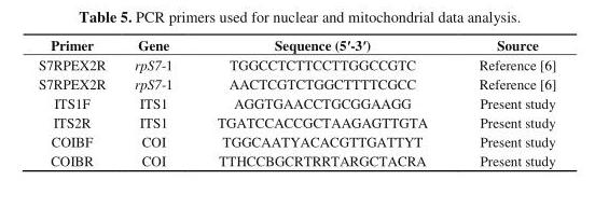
<table><thead><tr><td>Primer</td><td>Gene</td><td>Sequence (5′-3′)</td><td>Source</td></tr></thead><tbody><tr><td>S7RPEX2R</td><td>rpS7-1</td><td>TGGCCTCTTCCTTGGCCGTC</td><td>Reference [6]</td></tr><tr><td>S7RPEX2R</td><td>rpS7-1</td><td>AACTCGTCTGGCTTTTCGCC</td><td>Reference [6]</td></tr><tr><td>ITS1F</td><td>ITS1</td><td>AGGTGAACCTGCGGAAGG</td><td>Present study</td></tr><tr><td>ITS2R</td><td>ITS1</td><td>TGATCCACCGCTAAGAGTTGTA</td><td>Present study</td></tr><tr><td>COIBF</td><td>COI</td><td>TGGCAATYACACGTTGATTYT</td><td>Present study</td></tr><tr><td>COIBR</td><td>COI</td><td>TTHCCBGCRTRRTARGCTACRA</td><td>Present study</td></tr></tbody></table>